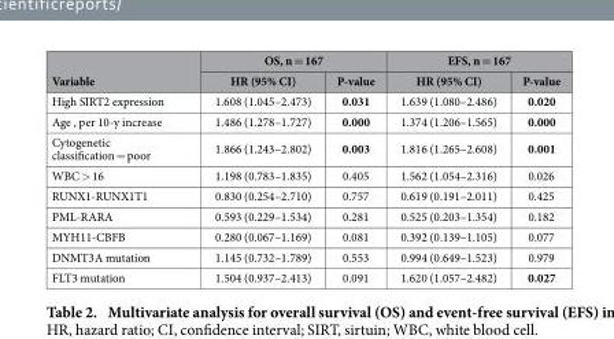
<table><thead><tr><td rowspan="2">Variable</td><td colspan="2">OS, n = 167</td><td colspan="2">EFS, n = 167</td></tr><tr><td>HR (95% CI)</td><td>P-value</td><td>HR (95% CI)</td><td>P-value</td></tr></thead><tbody><tr><td>High SIRT2 expression</td><td>1.608 (1.045–2.473)</td><td>0.031</td><td>1.639 (1.080–2.486)</td><td>0.020</td></tr><tr><td>Age , per 10-y increase</td><td>1.486 (1.278–1.727)</td><td>0.000</td><td>1.374 (1.206–1.565)</td><td>0.000</td></tr><tr><td>Cytogenetic classification = poor</td><td>1.866 (1.243–2.802)</td><td>0.003</td><td>1.816 (1.265–2.608)</td><td>0.001</td></tr><tr><td>WBC &gt; 16</td><td>1.198 (0.783–1.835)</td><td>0.405</td><td>1.562 (1.054–2.316)</td><td>0.026</td></tr><tr><td>RUNX1-RUNX1T1</td><td>0.830 (0.254–2.710)</td><td>0.757</td><td>0.619 (0.191–2.011)</td><td>0.425</td></tr><tr><td>PML-RARA</td><td>0.593 (0.229–1.534)</td><td>0.281</td><td>0.525 (0.203–1.354)</td><td>0.182</td></tr><tr><td>MYH11-CBFB</td><td>0.280 (0.067–1.169)</td><td>0.081</td><td>0.392 (0.139–1.105)</td><td>0.077</td></tr><tr><td>DNMT3A mutation</td><td>1.145 (0.732–1.789)</td><td>0.553</td><td>0.994 (0.649–1.523)</td><td>0.979</td></tr><tr><td>FLT3 mutation</td><td>1.504 (0.937–2.413)</td><td>0.091</td><td>1.620 (1.057–2.482)</td><td>0.027</td></tr></tbody></table>